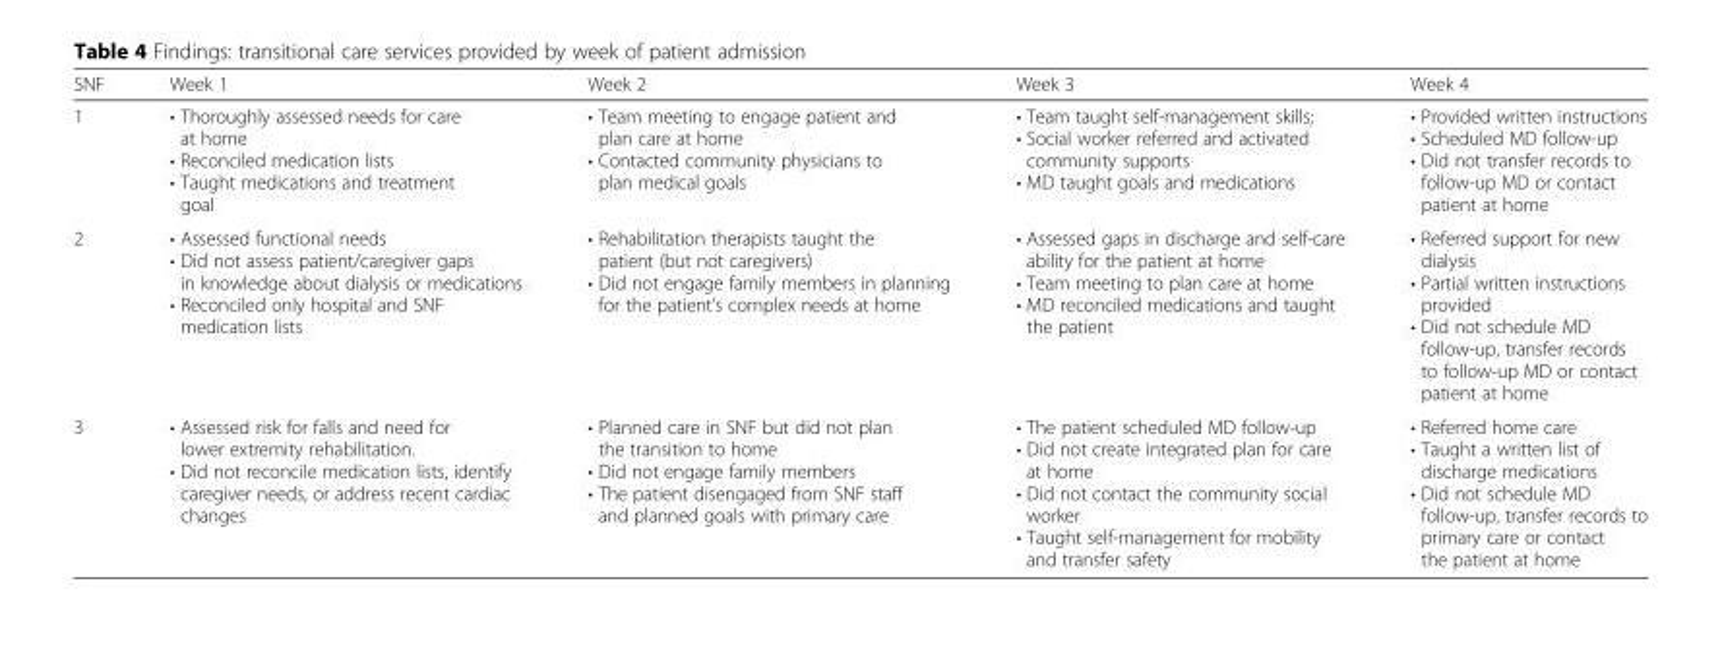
<table><thead><tr><td>SNF</td><td>Week 1</td><td>Week 2</td><td>Week 3</td><td>Week 4</td></tr></thead><tbody><tr><td>1</td><td>• Thoroughly assessed needs for care at home • Reconciled medication lists • Taught medications and treatment goal</td><td>• Team meeting to engage patient and plan care at home • Contacted community physicians to plan medical goals</td><td>• Team taught self-management skills; • Social worker referred and activated community supports • MD taught goals and medications</td><td>• Provided written instructions • Scheduled MD follow-up • Did not transfer records to follow-up MD or contact patient at home</td></tr><tr><td>2</td><td>• Assessed functional needs • Did not assess patient/caregiver gaps in knowledge about dialysis or medications • Reconciled only hospital and SNF medication lists</td><td>• Rehabilitation therapists taught the patient (but not caregivers) • Did not engage family members in planning for the patient’s complex needs at home</td><td>• Assessed gaps in discharge and self-care ability for the patient at home • Team meeting to plan care at home • MD reconciled medications and taught the patient</td><td>• Referred support for new dialysis • Partial written instructions provided • Did not schedule MD follow-up, transfer records to follow-up MD or contact patient at home</td></tr><tr><td>3</td><td>• Assessed risk for falls and need for lower extremity rehabilitation. • Did not reconcile medication lists, identify caregiver needs, or address recent cardiac changes</td><td>• Planned care in SNF but did not plan the transition to home • Did not engage family members • The patient disengaged from SNF staff and planned goals with primary care</td><td>• The patient scheduled MD follow-up • Did not create integrated plan for care at home • Did not contact the community social worker • Taught self-management for mobility and transfer safety</td><td>• Referred home care • Taught a written list of discharge medications • Did not schedule MD follow-up, transfer records to primary care or contact the patient at home</td></tr></tbody></table>